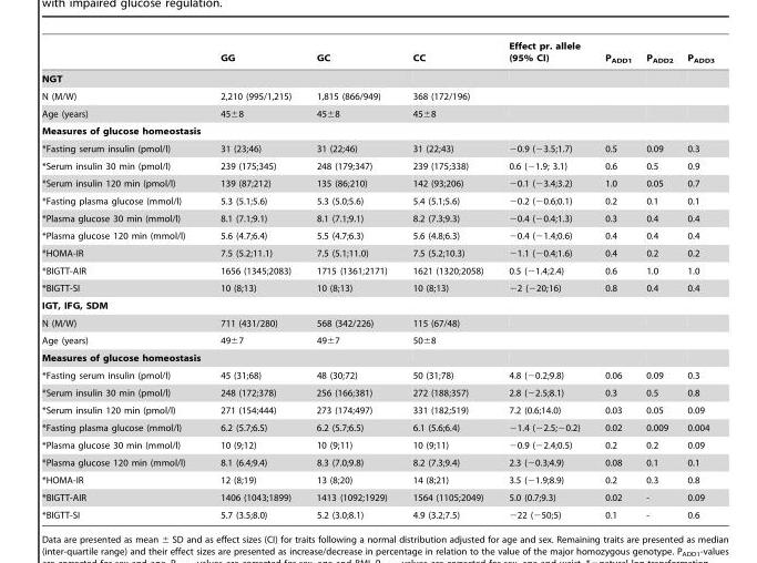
<table><thead><tr><td></td><td>GG</td><td>GC</td><td>CC</td><td>Effect pr. allele (95% CI)</td><td>P<sub>ADD1</sub></td><td>P<sub>ADD2</sub></td><td>P<sub>ADD3</sub></td></tr></thead><tbody><tr><td colspan="8">NGT</td></tr><tr><td>N (M/W)</td><td>2,210 (995/1,215)</td><td>1,815 (866/949)</td><td>368 (172/196)</td><td></td><td></td><td></td><td></td></tr><tr><td>Age (years)</td><td>45±8</td><td>45±8</td><td>45±8</td><td></td><td></td><td></td><td></td></tr><tr><td colspan="8">Measures of glucose homeostasis</td></tr><tr><td>*Fasting serum insulin (pmol/l)</td><td>31 (23;46)</td><td>31 (22;46)</td><td>31 (22;43)</td><td>−0.9 (−3.5;1.7)</td><td>0.5</td><td>0.09</td><td>0.3</td></tr><tr><td>*Serum insulin 30 min (pmol/l)</td><td>239 (175;345)</td><td>248 (179;347)</td><td>239 (175;338)</td><td>0.6 (−1.9; 3.1)</td><td>0.6</td><td>0.5</td><td>0.9</td></tr><tr><td>*Serum insulin 120 min (pmol/l)</td><td>139 (87;212)</td><td>135 (86;210)</td><td>142 (93;206)</td><td>−0.1 (−3.4;3.2)</td><td>1.0</td><td>0.05</td><td>0.7</td></tr><tr><td>*Fasting plasma glucose (mmol/l)</td><td>5.3 (5.1;5.6)</td><td>5.3 (5.0;5.6)</td><td>5.4 (5.1;5.6)</td><td>−0.2 (−0.6;0.1)</td><td>0.2</td><td>0.1</td><td>0.1</td></tr><tr><td>*Plasma glucose 30 min (mmol/l)</td><td>8.1 (7.1;9.1)</td><td>8.1 (7.1;9.1)</td><td>8.2 (7.3;9.3)</td><td>−0.4 (−0.4;1.3)</td><td>0.3</td><td>0.4</td><td>0.4</td></tr><tr><td>*Plasma glucose 120 min (mmol/l)</td><td>5.6 (4.7;6.4)</td><td>5.5 (4.7;6.3)</td><td>5.6 (4.8;6.3)</td><td>−0.4 (−1.4;0.6)</td><td>0.4</td><td>0.4</td><td>0.4</td></tr><tr><td>*HOMA-IR</td><td>7.5 (5.2;11.1)</td><td>7.5 (5.1;11.0)</td><td>7.5 (5.2;10.3)</td><td>−1.1 (−0.4;1.6)</td><td>0.4</td><td>0.2</td><td>0.2</td></tr><tr><td>*BIGTT-AIR</td><td>1656 (1345;2083)</td><td>1715 (1361;2171)</td><td>1621 (1320;2058)</td><td>0.5 (−1.4;2.4)</td><td>0.6</td><td>1.0</td><td>1.0</td></tr><tr><td>*BIGTT-SI</td><td>10 (8;13)</td><td>10 (8;13)</td><td>10 (8;13)</td><td>−2 (−20;16)</td><td>0.8</td><td>0.4</td><td>0.4</td></tr><tr><td colspan="8">IGT, IFG, SDM</td></tr><tr><td>N (M/W)</td><td>711 (431/280)</td><td>568 (342/226)</td><td>115 (67/48)</td><td></td><td></td><td></td><td></td></tr><tr><td>Age (years)</td><td>49±7</td><td>49±7</td><td>50±8</td><td></td><td></td><td></td><td></td></tr><tr><td colspan="8">Measures of glucose homeostasis</td></tr><tr><td>*Fasting serum insulin (pmol/l)</td><td>45 (31;68)</td><td>48 (30;72)</td><td>50 (31;78)</td><td>4.8 (−0.2;9.8)</td><td>0.06</td><td>0.09</td><td>0.3</td></tr><tr><td>*Serum insulin 30 min (pmol/l)</td><td>248 (172;378)</td><td>256 (166;381)</td><td>272 (188;357)</td><td>2.8 (−2.5;8.1)</td><td>0.3</td><td>0.5</td><td>0.8</td></tr><tr><td>*Serum insulin 120 min (pmol/l)</td><td>271 (154;444)</td><td>273 (174;497)</td><td>331 (182;519)</td><td>7.2 (0.6;14.0)</td><td>0.03</td><td>0.05</td><td>0.09</td></tr><tr><td>*Fasting plasma glucose (mmol/l)</td><td>6.2 (5.7;6.5)</td><td>6.2 (5.7;6.5)</td><td>6.1 (5.6;6.4)</td><td>−1.4 (−2.5;−0.2)</td><td>0.02</td><td>0.009</td><td>0.004</td></tr><tr><td>*Plasma glucose 30 min (mmol/l)</td><td>10 (9;12)</td><td>10 (9;11)</td><td>10 (9;11)</td><td>−0.9 (−2.4;0.5)</td><td>0.2</td><td>0.2</td><td>0.09</td></tr><tr><td>*Plasma glucose 120 min (mmol/l)</td><td>8.1 (6.4;9.4)</td><td>8.3 (7.0;9.8)</td><td>8.2 (7.3;9.4)</td><td>2.3 (−0.3;4.9)</td><td>0.08</td><td>0.1</td><td>0.1</td></tr><tr><td>*HOMA-IR</td><td>12 (8;19)</td><td>13 (8;20)</td><td>14 (8;21)</td><td>3.5 (−1.9;8.9)</td><td>0.2</td><td>0.3</td><td>0.8</td></tr><tr><td>*BIGTT-AIR</td><td>1406 (1043;1899)</td><td>1413 (1092;1929)</td><td>1564 (1105;2049)</td><td>5.0 (0.7;9.3)</td><td>0.02</td><td>-</td><td>0.09</td></tr><tr><td>*BIGTT-SI</td><td>5.7 (3.5;8.0)</td><td>5.2 (3.0;8.1)</td><td>4.9 (3.2;7.5)</td><td>−22 (−50;5)</td><td>0.1</td><td>-</td><td>0.6</td></tr></tbody></table>